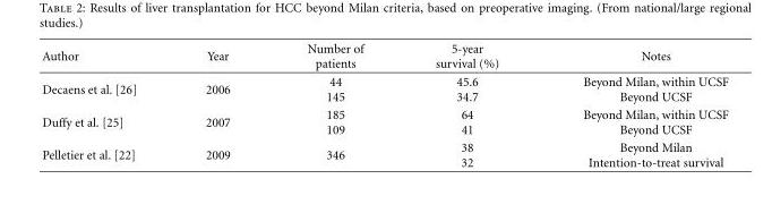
<table><thead><tr><td>Author</td><td>Year</td><td>Number of patients</td><td>5-year survival (%)</td><td>Notes</td></tr></thead><tbody><tr><td>Decaens et al. [26]</td><td>2006</td><td>44 145</td><td>45.6 34.7</td><td>Beyond Milan, within UCSF Beyond UCSF</td></tr><tr><td>Duffy et al. [25]</td><td>2007</td><td>185 109</td><td>64 41</td><td>Beyond Milan, within UCSF Beyond UCSF</td></tr><tr><td>Pelletier et al. [22]</td><td>2009</td><td>346</td><td>38 32</td><td>Beyond Milan Intention-to-treat survival</td></tr></tbody></table>